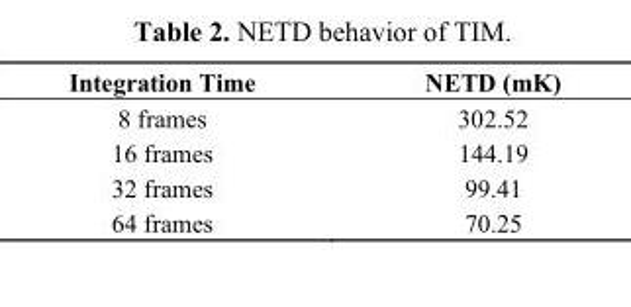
<table><thead><tr><td>Integration Time</td><td>NETD (mK)</td></tr></thead><tbody><tr><td>8 frames</td><td>302.52</td></tr><tr><td>16 frames</td><td>144.19</td></tr><tr><td>32 frames</td><td>99.41</td></tr><tr><td>64 frames</td><td>70.25</td></tr></tbody></table>